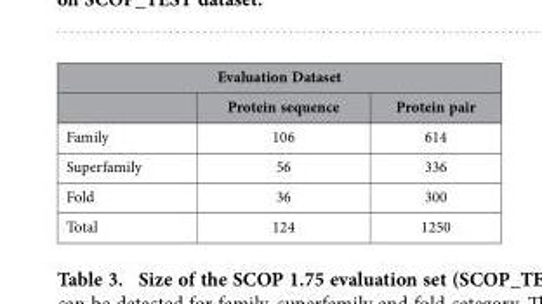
<table><thead><tr><td colspan="3">Evaluation Dataset</td></tr><tr><td></td><td>Protein sequence</td><td>Protein pair</td></tr></thead><tbody><tr><td>Family</td><td>106</td><td>614</td></tr><tr><td>Superfamily</td><td>56</td><td>336</td></tr><tr><td>Fold</td><td>36</td><td>300</td></tr><tr><td>Total</td><td>124</td><td>1250</td></tr></tbody></table>